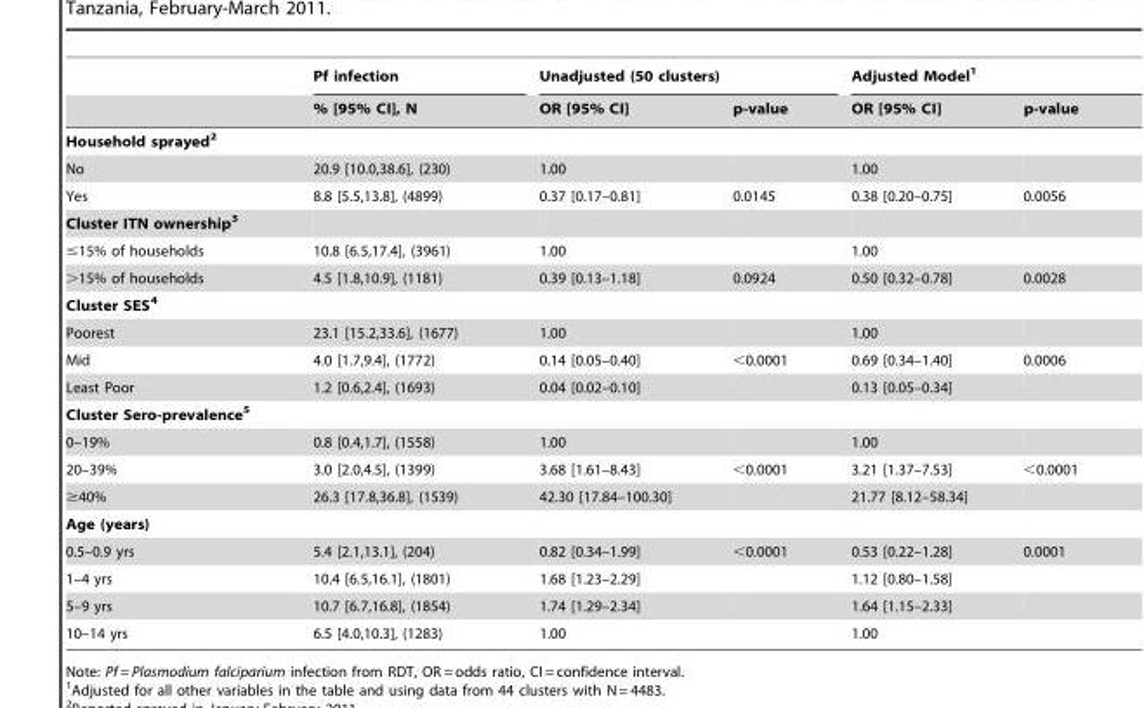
<table><thead><tr><td rowspan="2"></td><td rowspan="2">Pf infection % [95% CI], N</td><td colspan="2">Unadjusted (50 clusters)</td><td colspan="2">Adjusted Model<sup>1</sup></td></tr><tr><td>OR [95% CI]</td><td>p-value</td><td>OR [95% CI]</td><td>p-value</td></tr></thead><tbody><tr><td colspan="6">Household sprayed2</td></tr><tr><td>No</td><td>20.9 [10.0,38.6], (230)</td><td>1.00</td><td></td><td>1.00</td><td></td></tr><tr><td>Yes</td><td>8.8 [5.5,13.8], (4899)</td><td>0.37 [0.17–0.81]</td><td>0.0145</td><td>0.38 [0.20–0.75]</td><td>0.0056</td></tr><tr><td colspan="6">Cluster ITN ownership3</td></tr><tr><td>≤15% of households</td><td>10.8 [6.5,17.4], (3961)</td><td>1.00</td><td></td><td>1.00</td><td></td></tr><tr><td>&gt;15% of households</td><td>4.5 [1.8,10.9], (1181)</td><td>0.39 [0.13–1.18]</td><td>0.0924</td><td>0.50 [0.32–0.78]</td><td>0.0028</td></tr><tr><td colspan="6">Cluster SES4</td></tr><tr><td>Poorest</td><td>23.1 [15.2,33.6], (1677)</td><td>1.00</td><td></td><td>1.00</td><td></td></tr><tr><td>Mid</td><td>4.0 [1.7,9.4], (1772)</td><td>0.14 [0.05–0.40]</td><td>&lt;0.0001</td><td>0.69 [0.34–1.40]</td><td>0.0006</td></tr><tr><td>Least Poor</td><td>1.2 [0.6,2.4], (1693)</td><td>0.04 [0.02–0.10]</td><td></td><td>0.13 [0.05–0.34]</td><td></td></tr><tr><td colspan="6">Cluster Sero-prevalence5</td></tr><tr><td>0–19%</td><td>0.8 [0.4,1.7], (1558)</td><td>1.00</td><td></td><td>1.00</td><td></td></tr><tr><td>20–39%</td><td>3.0 [2.0,4.5], (1399)</td><td>3.68 [1.61–8.43]</td><td>&lt;0.0001</td><td>3.21 [1.37–7.53]</td><td>&lt;0.0001</td></tr><tr><td>≥40%</td><td>26.3 [17.8,36.8], (1539)</td><td>42.30 [17.84–100.30]</td><td></td><td>21.77 [8.12–58.34]</td><td></td></tr><tr><td colspan="6">Age (years)</td></tr><tr><td>0.5–0.9 yrs</td><td>5.4 [2.1,13.1], (204)</td><td>0.82 [0.34–1.99]</td><td>&lt;0.0001</td><td>0.53 [0.22–1.28]</td><td>0.0001</td></tr><tr><td>1–4 yrs</td><td>10.4 [6.5,16.1], (1801)</td><td>1.68 [1.23–2.29]</td><td></td><td>1.12 [0.80–1.58]</td><td></td></tr><tr><td>5–9 yrs</td><td>10.7 [6.7,16.8], (1854)</td><td>1.74 [1.29–2.34]</td><td></td><td>1.64 [1.15–2.33]</td><td></td></tr><tr><td>10–14 yrs</td><td>6.5 [4.0,10.3], (1283)</td><td>1.00</td><td></td><td>1.00</td><td></td></tr></tbody></table>